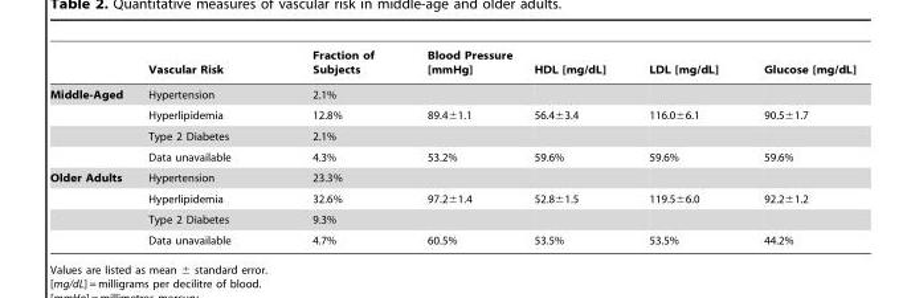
<table><thead><tr><td></td><td>Vascular Risk</td><td>Fraction of Subjects</td><td>Blood Pressure [mmHg]</td><td>HDL [mg/dL]</td><td>LDL [mg/dL]</td><td>Glucose [mg/dL]</td></tr></thead><tbody><tr><td rowspan="4">Middle-Aged</td><td>Hypertension</td><td>2.1%</td><td></td><td></td><td></td><td></td></tr><tr><td>Hyperlipidemia</td><td>12.8%</td><td>89.4±1.1</td><td>56.4±3.4</td><td>116.0±6.1</td><td>90.5±1.7</td></tr><tr><td>Type 2 Diabetes</td><td>2.1%</td><td></td><td></td><td></td><td></td></tr><tr><td>Data unavailable</td><td>4.3%</td><td>53.2%</td><td>59.6%</td><td>59.6%</td><td>59.6%</td></tr><tr><td rowspan="4">Older Adults</td><td>Hypertension</td><td>23.3%</td><td></td><td></td><td></td><td></td></tr><tr><td>Hyperlipidemia</td><td>32.6%</td><td>97.2±1.4</td><td>52.8±1.5</td><td>119.5±6.0</td><td>92.2±1.2</td></tr><tr><td>Type 2 Diabetes</td><td>9.3%</td><td></td><td></td><td></td><td></td></tr><tr><td>Data unavailable</td><td>4.7%</td><td>60.5%</td><td>53.5%</td><td>53.5%</td><td>44.2%</td></tr></tbody></table>